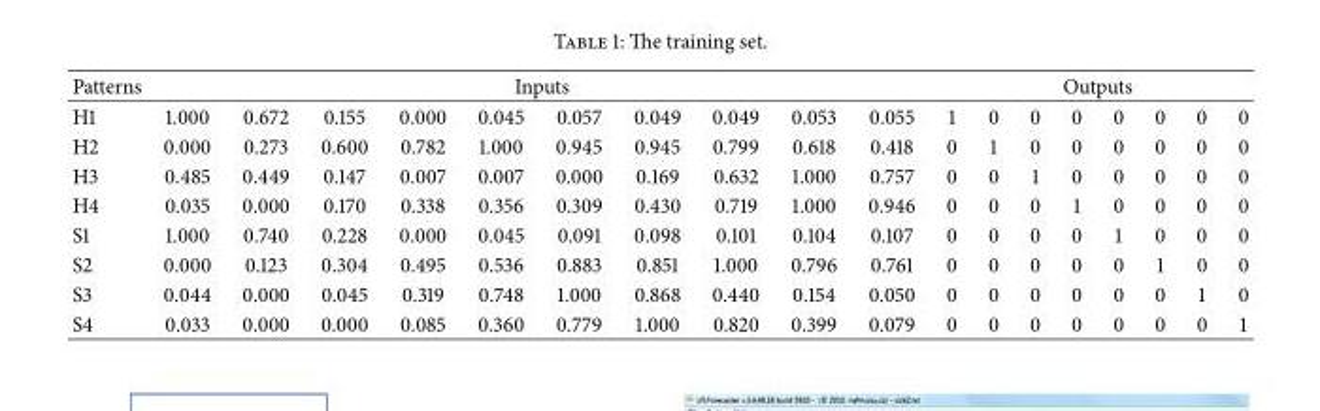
<table><thead><tr><td rowspan="2">Patterns H1</td><td colspan="10">Inputs</td><td colspan="8">Outputs</td></tr><tr><td>1.000</td><td>0.672</td><td>0.155</td><td>0.000</td><td>0.045</td><td>0.057</td><td>0.049</td><td>0.049</td><td>0.053</td><td>0.055</td><td>1</td><td>0</td><td>0</td><td>0</td><td>0</td><td>0</td><td>0</td><td>0</td></tr></thead><tbody><tr><td>H2</td><td>0.000</td><td>0.273</td><td>0.600</td><td>0.782</td><td>1.000</td><td>0.945</td><td>0.945</td><td>0.799</td><td>0.618</td><td>0.418</td><td>0</td><td>1</td><td>0</td><td>0</td><td>0</td><td>0</td><td>0</td><td>0</td></tr><tr><td>H3</td><td>0.485</td><td>0.449</td><td>0.147</td><td>0.007</td><td>0.007</td><td>0.000</td><td>0.169</td><td>0.632</td><td>1.000</td><td>0.757</td><td>0</td><td>0</td><td>1</td><td>0</td><td>0</td><td>0</td><td>0</td><td>0</td></tr><tr><td>H4</td><td>0.035</td><td>0.000</td><td>0.170</td><td>0.338</td><td>0.356</td><td>0.309</td><td>0.430</td><td>0.719</td><td>1.000</td><td>0.946</td><td>0</td><td>0</td><td>0</td><td>1</td><td>0</td><td>0</td><td>0</td><td>0</td></tr><tr><td>S1</td><td>1.000</td><td>0.740</td><td>0.228</td><td>0.000</td><td>0.045</td><td>0.091</td><td>0.098</td><td>0.101</td><td>0.104</td><td>0.107</td><td>0</td><td>0</td><td>0</td><td>0</td><td>1</td><td>0</td><td>0</td><td>0</td></tr><tr><td>S2</td><td>0.000</td><td>0.123</td><td>0.304</td><td>0.495</td><td>0.536</td><td>0.883</td><td>0.851</td><td>1.000</td><td>0.796</td><td>0.761</td><td>0</td><td>0</td><td>0</td><td>0</td><td>0</td><td>1</td><td>0</td><td>0</td></tr><tr><td>S3</td><td>0.044</td><td>0.000</td><td>0.045</td><td>0.319</td><td>0.748</td><td>1.000</td><td>0.868</td><td>0.440</td><td>0.154</td><td>0.050</td><td>0</td><td>0</td><td>0</td><td>0</td><td>0</td><td>0</td><td>1</td><td>0</td></tr><tr><td>S4</td><td>0.033</td><td>0.000</td><td>0.000</td><td>0.085</td><td>0.360</td><td>0.779</td><td>1.000</td><td>0.820</td><td>0.399</td><td>0.079</td><td>0</td><td>0</td><td>0</td><td>0</td><td>0</td><td>0</td><td>0</td><td>1</td></tr></tbody></table>